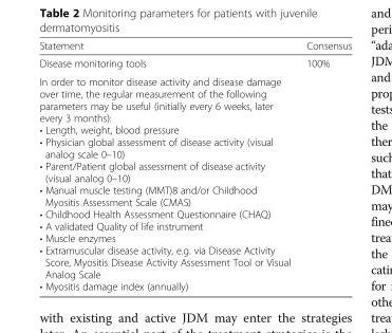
<table><thead><tr><td>Statement</td><td>Consensus</td></tr></thead><tbody><tr><td>Disease monitoring tools</td><td rowspan="2">100%</td></tr><tr><td>In order to monitor disease activity and disease damage over time, the regular measurement of the following parameters may be useful (initially every 6 weeks, later every 3 months): • Length, weight, blood pressure • Physician global assessment of disease activity (visual analog scale 0–10) • Parent/Patient global assessment of disease activity (visual analog 0–10) • Manual muscle testing (MMT)8 and/or Childhood Myositis Assessment Scale (CMAS) • Childhood Health Assessment Questionnaire (CHAQ) • A validated Quality of life instrument • Muscle enzymes • Extramuscular disease activity, e.g. via Disease Activity Score, Myositis Disease Activity Assessment Tool or Visual Analog Scale • Myositis damage index (annually)</td></tr></tbody></table>